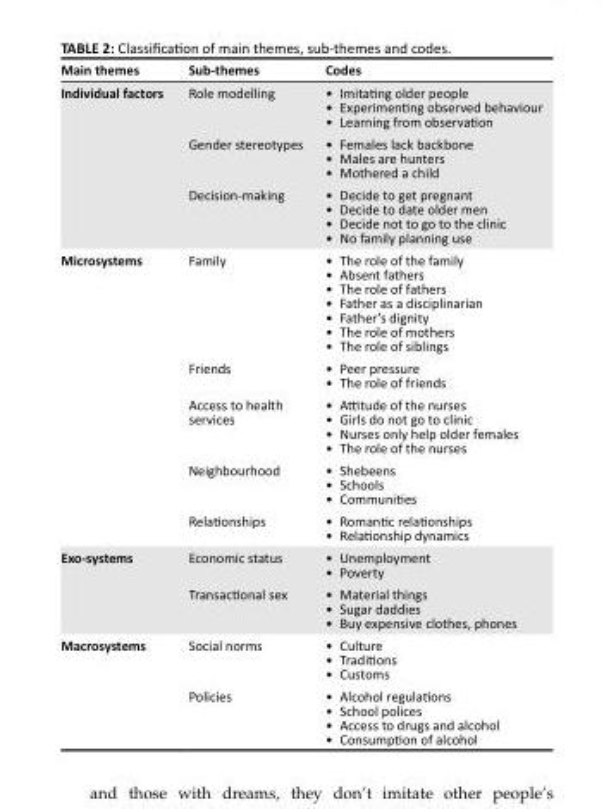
<table><thead><tr><td>Main themes</td><td>Sub-themes</td><td>Codes</td></tr></thead><tbody><tr><td rowspan="3">Individual factors</td><td>Role modelling</td><td>• Imitating older people • Experimenting observed behaviour • Learning from observation</td></tr><tr><td>Gender stereotypes</td><td>• Females lack backbone • Males are hunters • Mothered a child</td></tr><tr><td>Decision-making</td><td>• Decide to get pregnant • Decide to date older men • Decide not to go to the clinic • No family planning use</td></tr><tr><td rowspan="5">Microsystems</td><td>Family</td><td>• The role of the family • Absent fathers • The role of fathers • Father as a disciplinarian • Father’s dignity • The role of mothers • The role of siblings</td></tr><tr><td>Friends</td><td>• Peer pressure • The role of friends</td></tr><tr><td>Access to health services</td><td>• Attitude of the nurses • Girls do not go to clinic • Nurses only help older females • The role of the nurses</td></tr><tr><td>Neighbourhood</td><td>• Shebeens • Schools • Communities</td></tr><tr><td>Relationships</td><td>• Romantic relationships • Relationship dynamics</td></tr><tr><td rowspan="2">Exo-systems</td><td>Economic status</td><td>• Unemployment • Poverty</td></tr><tr><td>Transactional sex</td><td>• Material things • Sugar daddies • Buy expensive clothes, phones</td></tr><tr><td rowspan="2">Macrosystems</td><td>Social norms</td><td>• Culture • Traditions • Customs</td></tr><tr><td>Policies</td><td>• Alcohol regulations • School polices • Access to drugs and alcohol • Consumption of alcohol</td></tr></tbody></table>